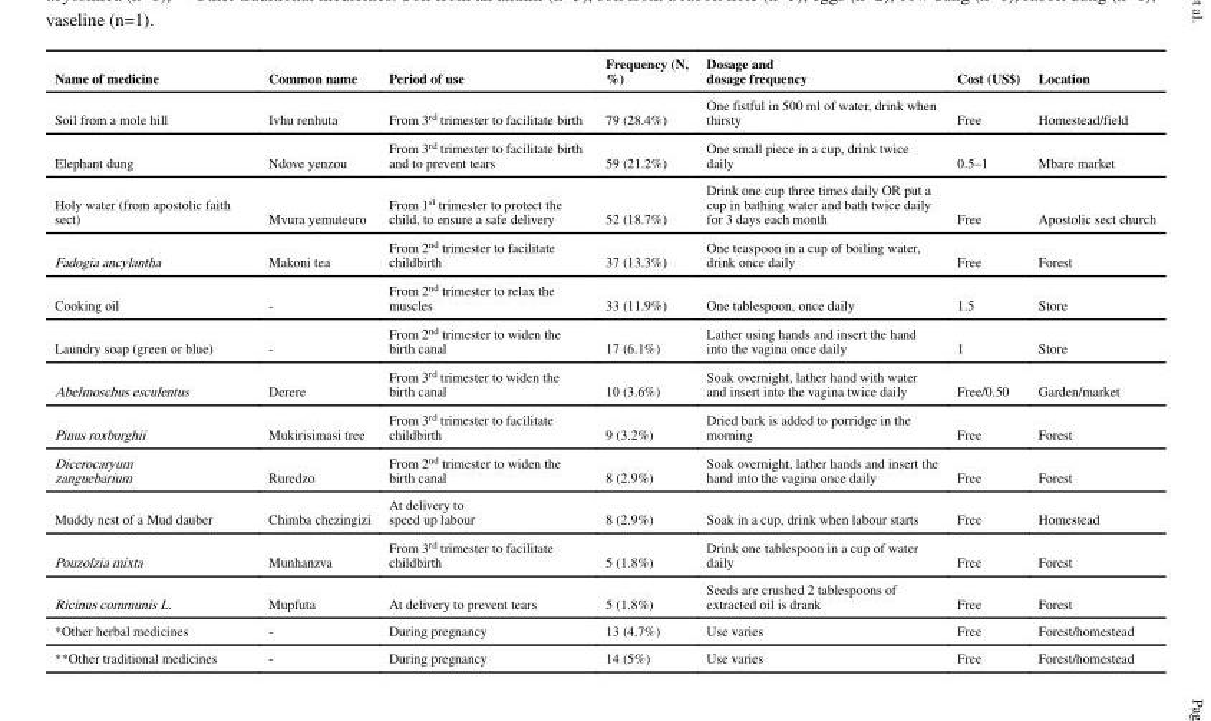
<table><thead><tr><td>Name of medicine</td><td>Common name</td><td>Period of use</td><td>Frequency (N, %)</td><td>Dosage and dosage frequency</td><td>Cost (US$)</td><td>Location</td></tr></thead><tbody><tr><td>Soil from a mole hill</td><td>Ivhu renhuta</td><td>From 3<sup>rd</sup> trimester to facilitate birth</td><td>79 (28.4%)</td><td>One fistful in 500 ml of water, drink when thirsty</td><td>Free</td><td>Homestead/field</td></tr><tr><td>Elephant dung</td><td>Ndove yenzou</td><td>From 3<sup>rd</sup> trimester to facilitate birth and to prevent tears</td><td>59 (21.2%)</td><td>One small piece in a cup, drink twice daily</td><td>0.5–1</td><td>Mbare market</td></tr><tr><td>Holy water (from apostolic faith sect)</td><td>Mvura yemuteuro</td><td>From 1<sup>st</sup> trimester to protect the child, to ensure a safe delivery</td><td>52 (18.7%)</td><td>Drink one cup three times daily OR put a cup in bathing water and bath twice daily for 3 days each month</td><td>Free</td><td>Apostolic sect church</td></tr><tr><td>Fadogia ancylantha</td><td>Makoni tea</td><td>From 2<sup>nd</sup> trimester to facilitate childbirth</td><td>37 (13.3%)</td><td>One teaspoon in a cup of boiling water, drink once daily</td><td>Free</td><td>Forest</td></tr><tr><td>Cooking oil</td><td>-</td><td>From 2<sup>nd</sup> trimester to relax the muscles</td><td>33 (11.9%)</td><td>One tablespoon, once daily</td><td>1.5</td><td>Store</td></tr><tr><td>Laundry soap (green or blue)</td><td>-</td><td>From 2<sup>nd</sup> trimester to widen the birth canal</td><td>17 (6.1%)</td><td>Lather using hands and insert the hand into the vagina once daily</td><td>1</td><td>Store</td></tr><tr><td>Abelmoschus esculentus</td><td>Derere</td><td>From 3<sup>rd</sup> trimester to widen the birth canal</td><td>10 (3.6%)</td><td>Soak overnight, lather hand with water and insert into the vagina twice daily</td><td>Free/0.50</td><td>Garden/market</td></tr><tr><td>Pinus roxburghii</td><td>Mukirisimasi tree</td><td>From 3<sup>rd</sup> trimester to facilitate childbirth</td><td>9 (3.2%)</td><td>Dried bark is added to porridge in the morning</td><td>Free</td><td>Forest</td></tr><tr><td>Dicerocaryum zanguebarium</td><td>Ruredzo</td><td>From 2<sup>nd</sup> trimester to widen the birth canal</td><td>8 (2.9%)</td><td>Soak overnight, lather hands and insert the hand into the vagina once daily</td><td>Free</td><td>Forest</td></tr><tr><td>Muddy nest of a Mud dauber</td><td>Chimba chezingizi</td><td>At delivery to speed up labour</td><td>8 (2.9%)</td><td>Soak in a cup, drink when labour starts</td><td>Free</td><td>Homestead</td></tr><tr><td>Pouzolzia mixta</td><td>Munhanzva</td><td>From 3<sup>rd</sup> trimester to facilitate childbirth</td><td>5 (1.8%)</td><td>Drink one tablespoon in a cup of water daily</td><td>Free</td><td>Forest</td></tr><tr><td>Ricinus communis L.</td><td>Mupfuta</td><td>At delivery to prevent tears</td><td>5 (1.8%)</td><td>Seeds are crushed 2 tablespoons of extracted oil is drank</td><td>Free</td><td>Forest</td></tr><tr><td>*Other herbal medicines</td><td>-</td><td>During pregnancy</td><td>13 (4.7%)</td><td>Use varies</td><td>Free</td><td>Forest/homestead</td></tr><tr><td>**Other traditional medicines</td><td>-</td><td>During pregnancy</td><td>14 (5%)</td><td>Use varies</td><td>Free</td><td>Forest/homestead</td></tr></tbody></table>